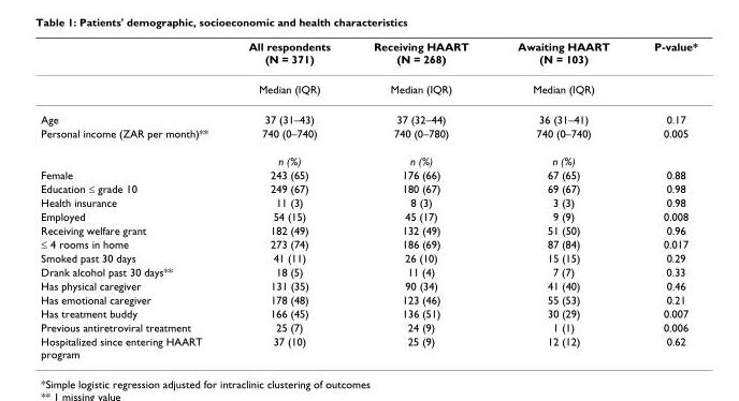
<table><thead><tr><td></td><td>All respondents (N = 371)</td><td>Receiving HAART (N = 268)</td><td>Awaiting HAART (N = 103)</td><td>P-value*</td></tr></thead><tbody><tr><td></td><td>Median (IQR)</td><td>Median (IQR)</td><td>Median (IQR)</td><td></td></tr><tr><td>Age</td><td>37 (31–43)</td><td>37 (32–44)</td><td>36 (31–41)</td><td>0.17</td></tr><tr><td rowspan="2">Personal income (ZAR per month)**</td><td>740 (0–740)</td><td>740 (0–780)</td><td>740 (0–740)</td><td>0.005</td></tr><tr><td>n (%)</td><td>n (%)</td><td>n (%)</td><td></td></tr><tr><td>Female</td><td>243 (65)</td><td>176 (66)</td><td>67 (65)</td><td>0.88</td></tr><tr><td>Education ≤ grade 10</td><td>249 (67)</td><td>180 (67)</td><td>69 (67)</td><td>0.98</td></tr><tr><td>Health insurance</td><td>11 (3)</td><td>8 (3)</td><td>3 (3)</td><td>0.98</td></tr><tr><td>Employed</td><td>54 (15)</td><td>45 (17)</td><td>9 (9)</td><td>0.008</td></tr><tr><td>Receiving welfare grant</td><td>182 (49)</td><td>132 (49)</td><td>51 (50)</td><td>0.96</td></tr><tr><td>≤ 4 rooms in home</td><td>273 (74)</td><td>186 (69)</td><td>87 (84)</td><td>0.017</td></tr><tr><td>Smoked past 30 days</td><td>41 (11)</td><td>26 (10)</td><td>15 (15)</td><td>0.29</td></tr><tr><td>Drank alcohol past 30 days**</td><td>18 (5)</td><td>11 (4)</td><td>7 (7)</td><td>0.33</td></tr><tr><td>Has physical caregiver</td><td>131 (35)</td><td>90 (34)</td><td>41 (40)</td><td>0.46</td></tr><tr><td>Has emotional caregiver</td><td>178 (48)</td><td>123 (46)</td><td>55 (53)</td><td>0.21</td></tr><tr><td>Has treatment buddy</td><td>166 (45)</td><td>136 (51)</td><td>30 (29)</td><td>0.007</td></tr><tr><td>Previous antiretroviral treatment</td><td>25 (7)</td><td>24 (9)</td><td>1 (1)</td><td>0.006</td></tr><tr><td>Hospitalized since entering HAART program</td><td>37 (10)</td><td>25 (9)</td><td>12 (12)</td><td>0.62</td></tr></tbody></table>